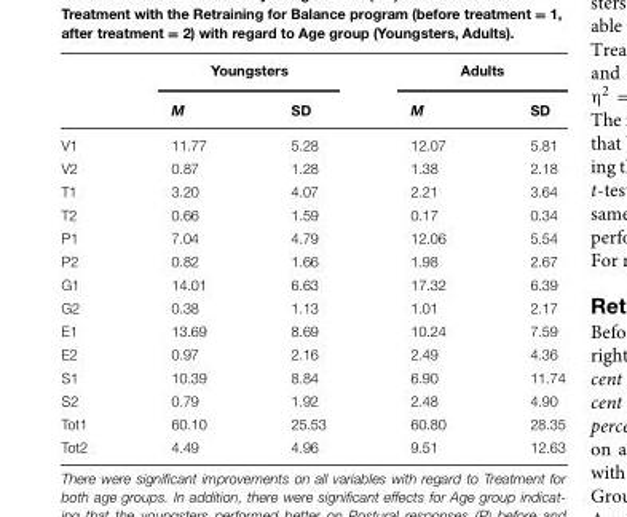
<table><thead><tr><td rowspan="2"></td><td colspan="2">Youngsters</td><td colspan="2">Adults</td></tr><tr><td>M</td><td>SD</td><td>M</td><td>SD</td></tr></thead><tbody><tr><td>V1</td><td>11.77</td><td>5.28</td><td>12.07</td><td>5.81</td></tr><tr><td>V2</td><td>0.87</td><td>1.28</td><td>1.38</td><td>2.18</td></tr><tr><td>T1</td><td>3.20</td><td>4.07</td><td>2.21</td><td>3.64</td></tr><tr><td>T2</td><td>0.66</td><td>1.59</td><td>0.17</td><td>0.34</td></tr><tr><td>P1</td><td>7.04</td><td>4.79</td><td>12.06</td><td>5.54</td></tr><tr><td>P2</td><td>0.82</td><td>1.66</td><td>1.98</td><td>2.67</td></tr><tr><td>G1</td><td>14.01</td><td>6.63</td><td>17.32</td><td>6.39</td></tr><tr><td>G2</td><td>0.38</td><td>1.13</td><td>1.01</td><td>2.17</td></tr><tr><td>E1</td><td>13.69</td><td>8.69</td><td>10.24</td><td>7.59</td></tr><tr><td>E2</td><td>0.97</td><td>2.16</td><td>2.49</td><td>4.36</td></tr><tr><td>S1</td><td>10.39</td><td>8.84</td><td>6.90</td><td>11.74</td></tr><tr><td>S2</td><td>0.79</td><td>1.92</td><td>2.48</td><td>4.90</td></tr><tr><td>Tot1</td><td>60.10</td><td>25.53</td><td>60.80</td><td>28.35</td></tr><tr><td>Tot2</td><td>4.49</td><td>4.96</td><td>9.51</td><td>12.63</td></tr></tbody></table>